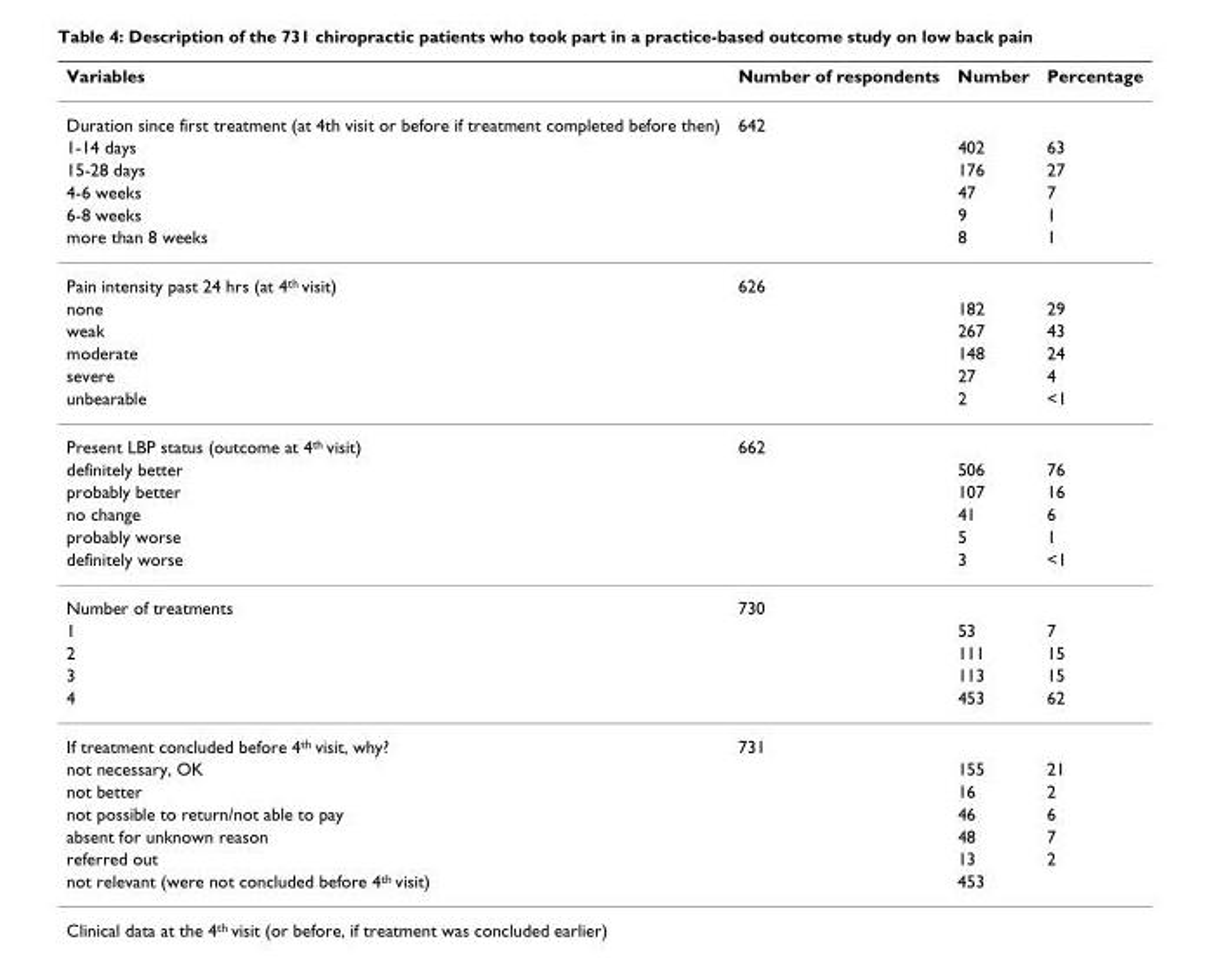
<table><thead><tr><td>Variables</td><td>Number of respondents</td><td>Number</td><td>Percentage</td></tr></thead><tbody><tr><td>Duration since first treatment (at 4th visit or before if treatment completed before then)</td><td>642</td><td></td><td></td></tr><tr><td>1-14 days</td><td></td><td>402</td><td>63</td></tr><tr><td>15-28 days</td><td></td><td>176</td><td>27</td></tr><tr><td>4-6 weeks</td><td></td><td>47</td><td>7</td></tr><tr><td>6-8 weeks</td><td></td><td>9</td><td>1</td></tr><tr><td>more than 8 weeks</td><td></td><td>8</td><td>1</td></tr><tr><td>Pain intensity past 24 hrs (at 4<sup>th</sup> visit)</td><td>626</td><td></td><td></td></tr><tr><td>none</td><td></td><td>182</td><td>29</td></tr><tr><td>weak</td><td></td><td>267</td><td>43</td></tr><tr><td>moderate</td><td></td><td>148</td><td>24</td></tr><tr><td>severe</td><td></td><td>27</td><td>4</td></tr><tr><td>unbearable</td><td></td><td>2</td><td>&lt;1</td></tr><tr><td>Present LBP status (outcome at 4<sup>th</sup> visit)</td><td>662</td><td></td><td></td></tr><tr><td>definitely better</td><td></td><td>506</td><td>76</td></tr><tr><td>probably better</td><td></td><td>107</td><td>16</td></tr><tr><td>no change</td><td></td><td>41</td><td>6</td></tr><tr><td>probably worse</td><td></td><td>5</td><td>1</td></tr><tr><td>definitely worse</td><td></td><td>3</td><td>&lt;1</td></tr><tr><td>Number of treatments</td><td>730</td><td></td><td></td></tr><tr><td>1</td><td></td><td>53</td><td>7</td></tr><tr><td>2</td><td></td><td>111</td><td>15</td></tr><tr><td>3</td><td></td><td>113</td><td>15</td></tr><tr><td>4</td><td></td><td>453</td><td>62</td></tr><tr><td>If treatment concluded before 4<sup>th</sup> visit, why?</td><td>731</td><td></td><td></td></tr><tr><td>not necessary, OK</td><td></td><td>155</td><td>21</td></tr><tr><td>not better</td><td></td><td>16</td><td>2</td></tr><tr><td>not possible to return/not able to pay</td><td></td><td>46</td><td>6</td></tr><tr><td>absent for unknown reason</td><td></td><td>48</td><td>7</td></tr><tr><td>referred out</td><td></td><td>13</td><td>2</td></tr><tr><td>not relevant (were not concluded before 4<sup>th</sup> visit)</td><td></td><td>453</td><td></td></tr></tbody></table>